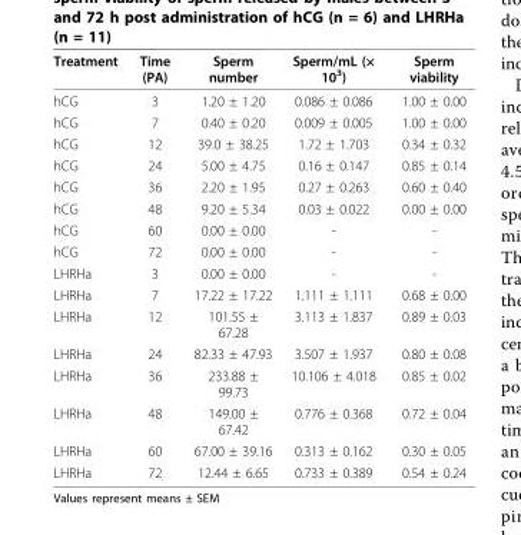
<table><thead><tr><td>Treatment</td><td>Time (PA)</td><td>Sperm number</td><td>Sperm/mL (× 10<sup>3</sup>)</td><td>Sperm viability</td></tr></thead><tbody><tr><td>hCG</td><td>3</td><td>1.20 ± 1.20</td><td>0.086 ± 0.086</td><td>1.00 ± 0.00</td></tr><tr><td>hCG</td><td>7</td><td>0.40 ± 0.20</td><td>0.009 ± 0.005</td><td>1.00 ± 0.00</td></tr><tr><td>hCG</td><td>12</td><td>39.0 ± 38.25</td><td>1.72 ± 1.703</td><td>0.34 ± 0.32</td></tr><tr><td>hCG</td><td>24</td><td>5.00 ± 4.75</td><td>0.16 ± 0.147</td><td>0.85 ± 0.14</td></tr><tr><td>hCG</td><td>36</td><td>2.20 ± 1.95</td><td>0.27 ± 0.263</td><td>0.60 ± 0.40</td></tr><tr><td>hCG</td><td>48</td><td>9.20 ± 5.34</td><td>0.03 ± 0.022</td><td>0.00 ± 0.00</td></tr><tr><td>hCG</td><td>60</td><td>0.00 ± 0.00</td><td>-</td><td>-</td></tr><tr><td>hCG</td><td>72</td><td>0.00 ± 0.00</td><td>-</td><td>-</td></tr><tr><td>LHRHa</td><td>3</td><td>0.00 ± 0.00</td><td>-</td><td>-</td></tr><tr><td>LHRHa</td><td>7</td><td>17.22 ± 17.22</td><td>1.111 ± 1.111</td><td>0.68 ± 0.00</td></tr><tr><td>LHRHa</td><td>12</td><td>101.55 ± 67.28</td><td>3.113 ± 1.837</td><td>0.89 ± 0.03</td></tr><tr><td>LHRHa</td><td>24</td><td>82.33 ± 47.93</td><td>3.507 ± 1.937</td><td>0.80 ± 0.08</td></tr><tr><td>LHRHa</td><td>36</td><td>233.88 ± 99.73</td><td>10.106 ± 4.018</td><td>0.85 ± 0.02</td></tr><tr><td>LHRHa</td><td>48</td><td>149.00 ± 67.42</td><td>0.776 ± 0.368</td><td>0.72 ± 0.04</td></tr><tr><td>LHRHa</td><td>60</td><td>67.00 ± 39.16</td><td>0.313 ± 0.162</td><td>0.30 ± 0.05</td></tr><tr><td>LHRHa</td><td>72</td><td>12.44 ± 6.65</td><td>0.733 ± 0.389</td><td>0.54 ± 0.24</td></tr></tbody></table>